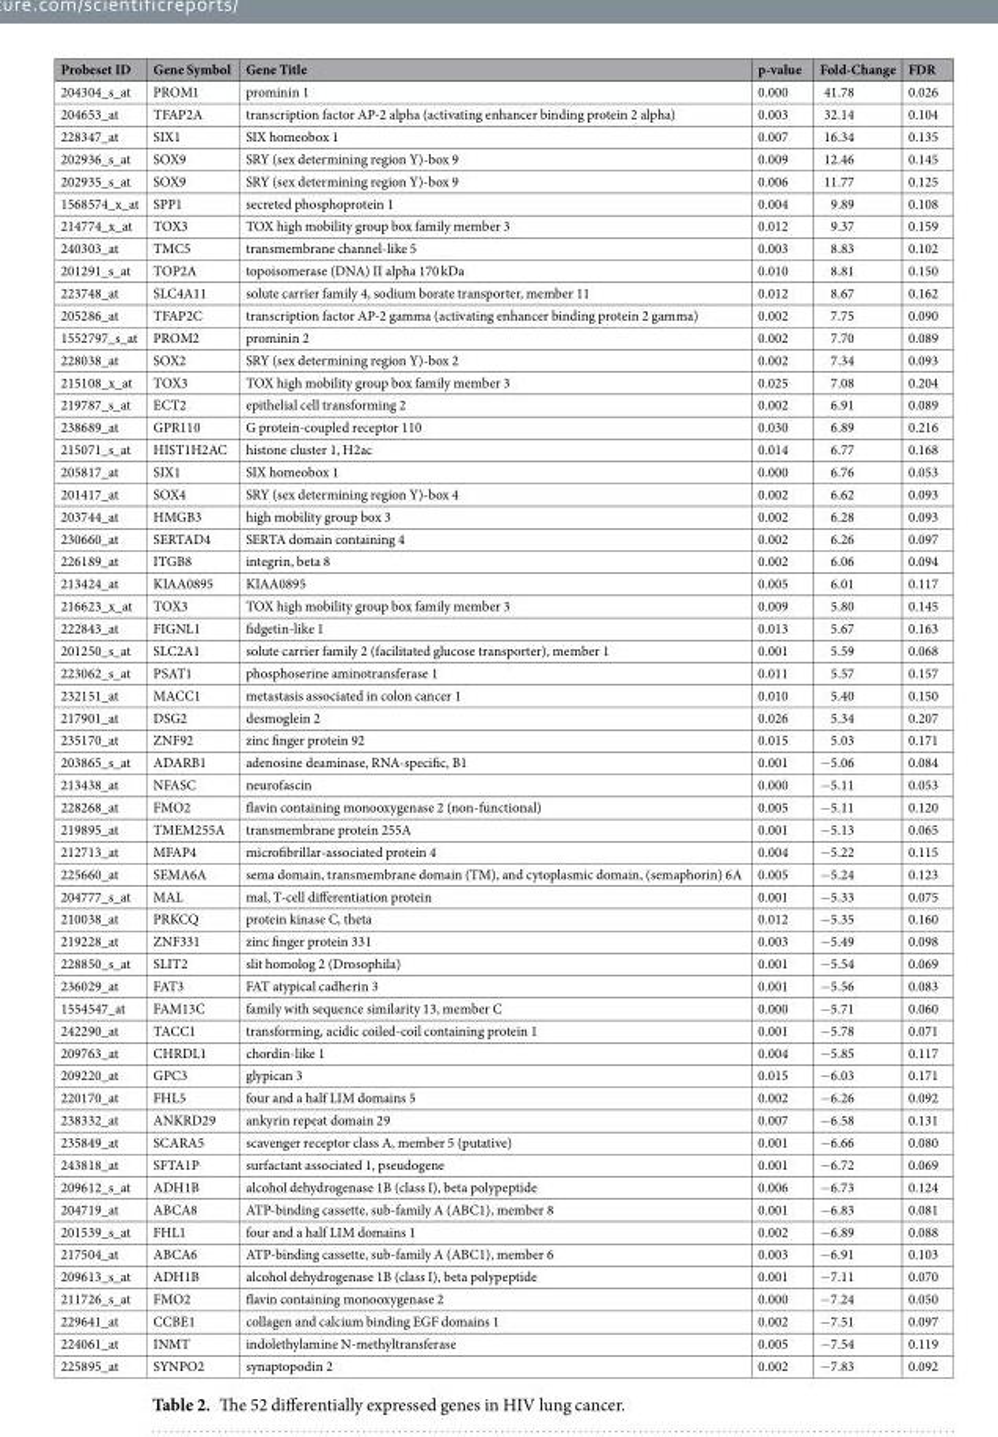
<table><thead><tr><td>Probeset ID</td><td>Gene Symbol</td><td>Gene Title</td><td>p-value</td><td>Fold-Change</td><td>FDR</td></tr></thead><tbody><tr><td>204304_s_at</td><td>PROM1</td><td>prominin 1</td><td>0.000</td><td>41.78</td><td>0.026</td></tr><tr><td>204653_at</td><td>TFAP2A</td><td>transcription factor AP-2 alpha (activating enhancer binding protein 2 alpha)</td><td>0.003</td><td>32.14</td><td>0.104</td></tr><tr><td>228347_at</td><td>SIX1</td><td>SIX homeobox 1</td><td>0.007</td><td>16.34</td><td>0.135</td></tr><tr><td>202936_s_at</td><td>SOX9</td><td>SRY (sex determining region Y)-box 9</td><td>0.009</td><td>12.46</td><td>0.145</td></tr><tr><td>202935_s_at</td><td>SOX9</td><td>SRY (sex determining region Y)-box 9</td><td>0.006</td><td>11.77</td><td>0.125</td></tr><tr><td>1568574_x_at</td><td>SPP1</td><td>secreted phosphoprotein 1</td><td>0.004</td><td>9.89</td><td>0.108</td></tr><tr><td>214774_x_at</td><td>TOX3</td><td>TOX high mobility group box family member 3</td><td>0.012</td><td>9.37</td><td>0.159</td></tr><tr><td>240303_at</td><td>TMC5</td><td>transmembrane channel-like 5</td><td>0.003</td><td>8.83</td><td>0.102</td></tr><tr><td>201291_s_at</td><td>TOP2A</td><td>topoisomerase (DNA) II alpha 170 kDa</td><td>0.010</td><td>8.81</td><td>0.150</td></tr><tr><td>223748_at</td><td>SLC4A11</td><td>solute carrier family 4, sodium borate transporter, member 11</td><td>0.012</td><td>8.67</td><td>0.162</td></tr><tr><td>205286_at</td><td>TFAP2C</td><td>transcription factor AP-2 gamma (activating enhancer binding protein 2 gamma)</td><td>0.002</td><td>7.75</td><td>0.090</td></tr><tr><td>1552797_s_at</td><td>PROM2</td><td>prominin 2</td><td>0.002</td><td>7.70</td><td>0.089</td></tr><tr><td>228038_at</td><td>SOX2</td><td>SRY (sex determining region Y)-box 2</td><td>0.002</td><td>7.34</td><td>0.093</td></tr><tr><td>215108_x_at</td><td>TOX3</td><td>TOX high mobility group box family member 3</td><td>0.025</td><td>7.08</td><td>0.204</td></tr><tr><td>219787_s_at</td><td>ECT2</td><td>epithelial cell transforming 2</td><td>0.002</td><td>6.91</td><td>0.089</td></tr><tr><td>238689_at</td><td>GPR110</td><td>G protein-coupled receptor 110</td><td>0.030</td><td>6.89</td><td>0.216</td></tr><tr><td>215071_s_at</td><td>HIST1H2AC</td><td>histone cluster 1, H2ac</td><td>0.014</td><td>6.77</td><td>0.168</td></tr><tr><td>205817_at</td><td>SIX1</td><td>SIX homeobox 1</td><td>0.000</td><td>6.76</td><td>0.053</td></tr><tr><td>201417_at</td><td>SOX4</td><td>SRY (sex determining region Y)-box 4</td><td>0.002</td><td>6.62</td><td>0.093</td></tr><tr><td>203744_at</td><td>HMGB3</td><td>high mobility group box 3</td><td>0.002</td><td>6.28</td><td>0.093</td></tr><tr><td>230660_at</td><td>SERTAD4</td><td>SERTA domain containing 4</td><td>0.002</td><td>6.26</td><td>0.097</td></tr><tr><td>226189_at</td><td>ITGB8</td><td>integrin, beta 8</td><td>0.002</td><td>6.06</td><td>0.094</td></tr><tr><td>213424_at</td><td>KIAA0895</td><td>KIAA0895</td><td>0.005</td><td>6.01</td><td>0.117</td></tr><tr><td>216623_x_at</td><td>TOX3</td><td>TOX high mobility group box family member 3</td><td>0.009</td><td>5.80</td><td>0.145</td></tr><tr><td>222843_at</td><td>FIGNL1</td><td>fidgetin-like 1</td><td>0.013</td><td>5.67</td><td>0.163</td></tr><tr><td>201250_s_at</td><td>SLC2A1</td><td>solute carrier family 2 (facilitated glucose transporter), member 1</td><td>0.001</td><td>5.59</td><td>0.068</td></tr><tr><td>223062_s_at</td><td>PSAT1</td><td>phosphoserine aminotransferase 1</td><td>0.011</td><td>5.57</td><td>0.157</td></tr><tr><td>232151_at</td><td>MACC1</td><td>metastasis associated in colon cancer 1</td><td>0.010</td><td>5.40</td><td>0.150</td></tr><tr><td>217901_at</td><td>DSG2</td><td>desmoglein 2</td><td>0.026</td><td>5.34</td><td>0.207</td></tr><tr><td>235170_at</td><td>ZNF92</td><td>zinc finger protein 92</td><td>0.015</td><td>5.03</td><td>0.171</td></tr><tr><td>203865_s_at</td><td>ADARB1</td><td>adenosine deaminase, RNA-specific, B1</td><td>0.001</td><td>−5.06</td><td>0.084</td></tr><tr><td>213438_at</td><td>NFASC</td><td>neurofascin</td><td>0.000</td><td>−5.11</td><td>0.053</td></tr><tr><td>228268_at</td><td>FMO2</td><td>flavin containing monooxygenase 2 (non-functional)</td><td>0.005</td><td>−5.11</td><td>0.120</td></tr><tr><td>219895_at</td><td>TMEM255A</td><td>transmembrane protein 255A</td><td>0.001</td><td>−5.13</td><td>0.065</td></tr><tr><td>212713_at</td><td>MFAP4</td><td>microfibrillar-associated protein 4</td><td>0.004</td><td>−5.22</td><td>0.115</td></tr><tr><td>225660_at</td><td>SEMA6A</td><td>sema domain, transmembrane domain (TM), and cytoplasmic domain, (semaphorin) 6A</td><td>0.005</td><td>−5.24</td><td>0.123</td></tr><tr><td>204777_s_at</td><td>MAL</td><td>mal, T-cell differentiation protein</td><td>0.001</td><td>−5.33</td><td>0.075</td></tr><tr><td>210038_at</td><td>PRKCQ</td><td>protein kinase C, theta</td><td>0.012</td><td>−5.35</td><td>0.160</td></tr><tr><td>219228_at</td><td>ZNF331</td><td>zinc finger protein 331</td><td>0.003</td><td>−5.49</td><td>0.098</td></tr><tr><td>228850_s_at</td><td>SLIT2</td><td>slit homolog 2 (Drosophila)</td><td>0.001</td><td>−5.54</td><td>0.069</td></tr><tr><td>236029_at</td><td>FAT3</td><td>FAT atypical cadherin 3</td><td>0.001</td><td>−5.56</td><td>0.083</td></tr><tr><td>1554547_at</td><td>FAM13C</td><td>family with sequence similarity 13, member C</td><td>0.000</td><td>−5.71</td><td>0.060</td></tr><tr><td>242290_at</td><td>TACC1</td><td>transforming, acidic coiled-coil containing protein 1</td><td>0.001</td><td>−5.78</td><td>0.071</td></tr><tr><td>209763_at</td><td>CHRDL1</td><td>chordin-like 1</td><td>0.004</td><td>−5.85</td><td>0.117</td></tr><tr><td>209220_at</td><td>GPC3</td><td>glypican 3</td><td>0.015</td><td>−6.03</td><td>0.171</td></tr><tr><td>220170_at</td><td>FHL5</td><td>four and a half LIM domains 5</td><td>0.002</td><td>−6.26</td><td>0.092</td></tr><tr><td>238332_at</td><td>ANKRD29</td><td>ankyrin repeat domain 29</td><td>0.007</td><td>−6.58</td><td>0.131</td></tr><tr><td>235849_at</td><td>SCARA5</td><td>scavenger receptor class A, member 5 (putative)</td><td>0.001</td><td>−6.66</td><td>0.080</td></tr><tr><td>243818_at</td><td>SFTA1P</td><td>surfactant associated 1, pseudogene</td><td>0.001</td><td>−6.72</td><td>0.069</td></tr><tr><td>209612_s_at</td><td>ADH1B</td><td>alcohol dehydrogenase 1B (class I), beta polypeptide</td><td>0.006</td><td>−6.73</td><td>0.124</td></tr><tr><td>204719_at</td><td>ABCA8</td><td>ATP-binding cassette, sub-family A (ABC1), member 8</td><td>0.001</td><td>−6.83</td><td>0.081</td></tr><tr><td>201539_s_at</td><td>FHL1</td><td>four and a half LIM domains 1</td><td>0.002</td><td>−6.89</td><td>0.088</td></tr><tr><td>217504_at</td><td>ABCA6</td><td>ATP-binding cassette, sub-family A (ABC1), member 6</td><td>0.003</td><td>−6.91</td><td>0.103</td></tr><tr><td>209613_s_at</td><td>ADH1B</td><td>alcohol dehydrogenase 1B (class I), beta polypeptide</td><td>0.001</td><td>−7.11</td><td>0.070</td></tr><tr><td>211726_s_at</td><td>FMO2</td><td>flavin containing monooxygenase 2</td><td>0.000</td><td>−7.24</td><td>0.050</td></tr><tr><td>229641_at</td><td>CCBE1</td><td>collagen and calcium binding EGF domains 1</td><td>0.002</td><td>−7.51</td><td>0.097</td></tr><tr><td>224061_at</td><td>INMT</td><td>indolethylamine N-methyltransferase</td><td>0.005</td><td>−7.54</td><td>0.119</td></tr><tr><td>225895_at</td><td>SYNPO2</td><td>synaptopodin 2</td><td>0.002</td><td>−7.83</td><td>0.092</td></tr></tbody></table>